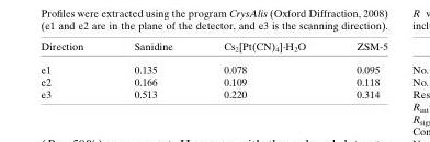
<table><thead><tr><td>Direction</td><td>Sanidine</td><td>Cs2[Pt(CN)4]�H2O</td><td>ZSM-5</td></tr></thead><tbody><tr><td>e1</td><td>0.135</td><td>0.078</td><td>0.095</td></tr><tr><td>e2</td><td>0.166</td><td>0.109</td><td>0.118</td></tr><tr><td>e3</td><td>0.513</td><td>0.220</td><td>0.314</td></tr></tbody></table>